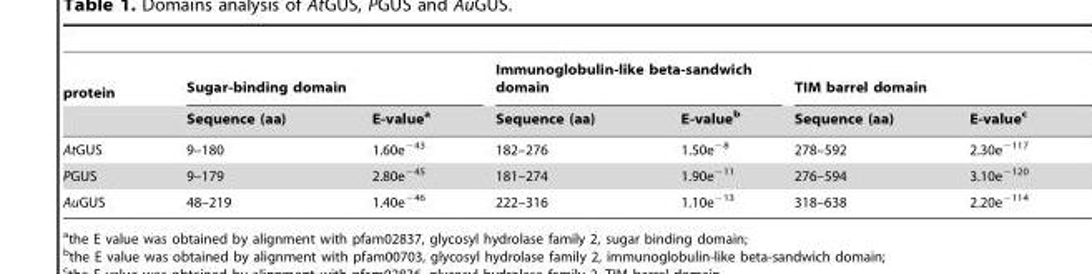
<table><thead><tr><td rowspan="2">protein</td><td colspan="2">Sugar-binding domain</td><td colspan="2">Immunoglobulin-like beta-sandwich domain</td><td colspan="2">TIM barrel domain</td></tr><tr><td>Sequence (aa)</td><td>E-value<sup>a</sup></td><td>Sequence (aa)</td><td>E-value<sup>b</sup></td><td>Sequence (aa)</td><td>E-value<sup>c</sup></td></tr></thead><tbody><tr><td>AtGUS</td><td>9–180</td><td>1.60e<sup>−43</sup></td><td>182–276</td><td>1.50e<sup>−8</sup></td><td>278–592</td><td>2.30e<sup>−117</sup></td></tr><tr><td>PGUS</td><td>9–179</td><td>2.80e<sup>−45</sup></td><td>181–274</td><td>1.90e<sup>−11</sup></td><td>276–594</td><td>3.10e<sup>−120</sup></td></tr><tr><td>AuGUS</td><td>48–219</td><td>1.40e<sup>−46</sup></td><td>222–316</td><td>1.10e<sup>−13</sup></td><td>318–638</td><td>2.20e<sup>−114</sup></td></tr></tbody></table>